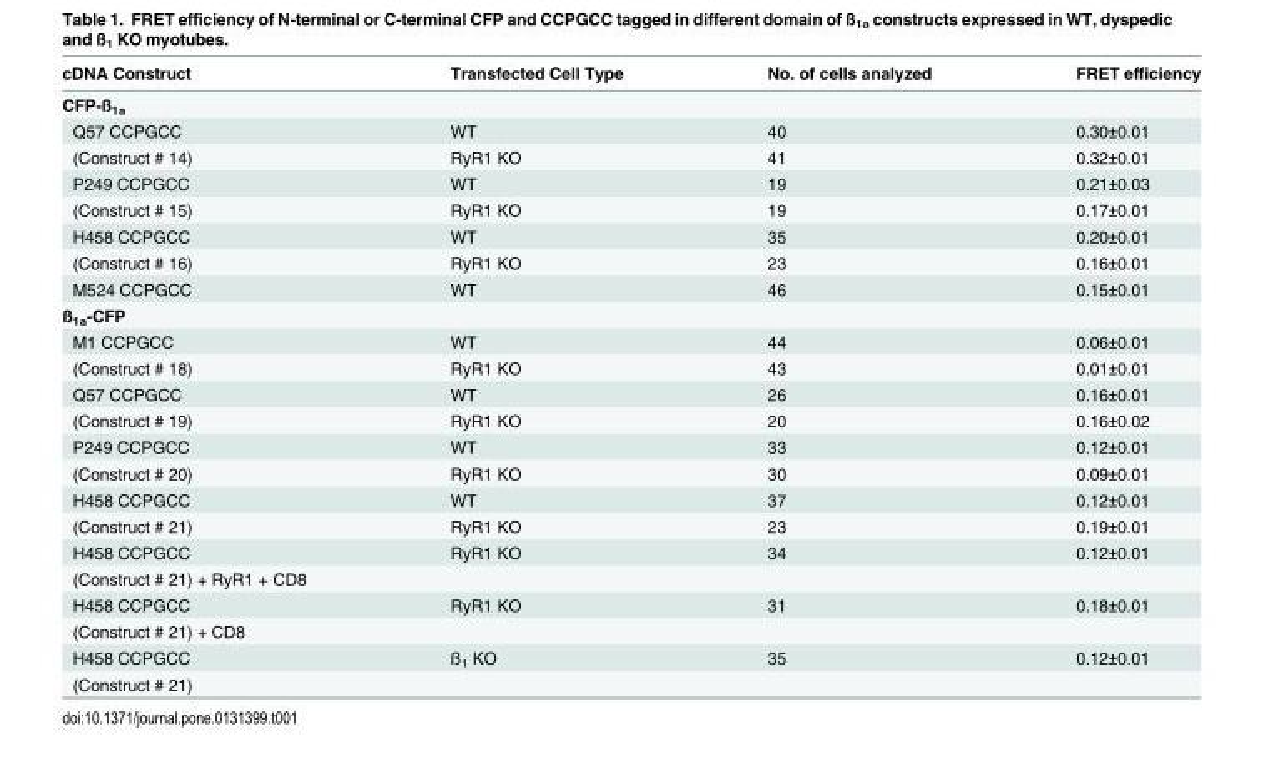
<table><thead><tr><td>cDNA Construct</td><td>Transfected Cell Type</td><td>No. of cells analyzed</td><td>FRET efficiency</td></tr></thead><tbody><tr><td colspan="4">CFP-ß<sub>1a</sub></td></tr><tr><td>Q57 CCPGCC</td><td>WT</td><td>40</td><td>0.30±0.01</td></tr><tr><td>(Construct # 14)</td><td>RyR1 KO</td><td>41</td><td>0.32±0.01</td></tr><tr><td>P249 CCPGCC</td><td>WT</td><td>19</td><td>0.21±0.03</td></tr><tr><td>(Construct # 15)</td><td>RyR1 KO</td><td>19</td><td>0.17±0.01</td></tr><tr><td>H458 CCPGCC</td><td>WT</td><td>35</td><td>0.20±0.01</td></tr><tr><td>(Construct # 16)</td><td>RyR1 KO</td><td>23</td><td>0.16±0.01</td></tr><tr><td>M524 CCPGCC</td><td>WT</td><td>46</td><td>0.15±0.01</td></tr><tr><td colspan="4">ß<sub>1a</sub>-CFP</td></tr><tr><td>M1 CCPGCC</td><td>WT</td><td>44</td><td>0.06±0.01</td></tr><tr><td>(Construct # 18)</td><td>RyR1 KO</td><td>43</td><td>0.01±0.01</td></tr><tr><td>Q57 CCPGCC</td><td>WT</td><td>26</td><td>0.16±0.01</td></tr><tr><td>(Construct # 19)</td><td>RyR1 KO</td><td>20</td><td>0.16±0.02</td></tr><tr><td>P249 CCPGCC</td><td>WT</td><td>33</td><td>0.12±0.01</td></tr><tr><td>(Construct # 20)</td><td>RyR1 KO</td><td>30</td><td>0.09±0.01</td></tr><tr><td>H458 CCPGCC</td><td>WT</td><td>37</td><td>0.12±0.01</td></tr><tr><td>(Construct # 21)</td><td>RyR1 KO</td><td>23</td><td>0.19±0.01</td></tr><tr><td>H458 CCPGCC</td><td>RyR1 KO</td><td>34</td><td>0.12±0.01</td></tr><tr><td colspan="4">(Construct # 21) + RyR1 + CD8</td></tr><tr><td>H458 CCPGCC</td><td>RyR1 KO</td><td>31</td><td>0.18±0.01</td></tr><tr><td colspan="4">(Construct # 21) + CD8</td></tr><tr><td>H458 CCPGCC</td><td>ß<sub>1</sub> KO</td><td>35</td><td>0.12±0.01</td></tr><tr><td>(Construct # 21)</td><td></td><td></td><td></td></tr></tbody></table>